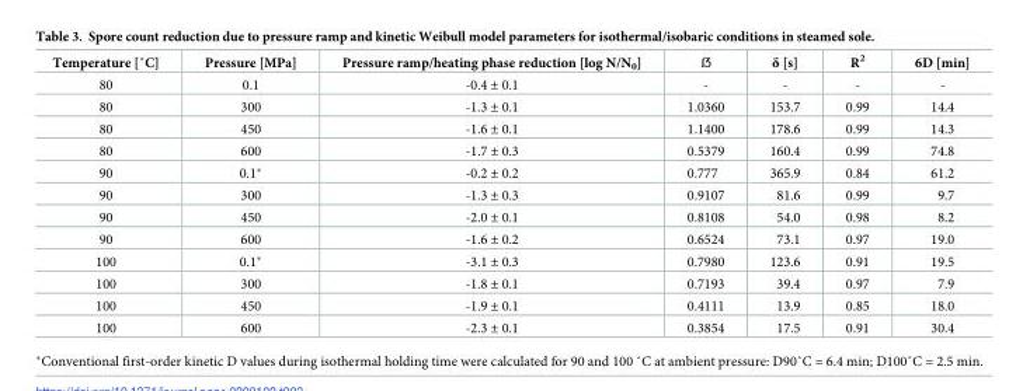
<table><thead><tr><td>Temperature [˚C]</td><td>Pressure [MPa]</td><td>Pressure ramp/heating phase reduction [log N/N<sub>0</sub>]</td><td>ẞ</td><td>δ [s]</td><td>R<sup>2</sup></td><td>6D [min]</td></tr></thead><tbody><tr><td>80</td><td>0.1</td><td>-0.4 ± 0.1</td><td>-</td><td>-</td><td>-</td><td>-</td></tr><tr><td>80</td><td>300</td><td>-1.3 ± 0.1</td><td>1.0360</td><td>153.7</td><td>0.99</td><td>14.4</td></tr><tr><td>80</td><td>450</td><td>-1.6 ± 0.1</td><td>1.1400</td><td>178.6</td><td>0.99</td><td>14.3</td></tr><tr><td>80</td><td>600</td><td>-1.7 ± 0.3</td><td>0.5379</td><td>160.4</td><td>0.99</td><td>74.8</td></tr><tr><td>90</td><td>0.1*</td><td>-0.2 ± 0.2</td><td>0.777</td><td>365.9</td><td>0.84</td><td>61.2</td></tr><tr><td>90</td><td>300</td><td>-1.3 ± 0.3</td><td>0.9107</td><td>81.6</td><td>0.99</td><td>9.7</td></tr><tr><td>90</td><td>450</td><td>-2.0 ± 0.1</td><td>0.8108</td><td>54.0</td><td>0.98</td><td>8.2</td></tr><tr><td>90</td><td>600</td><td>-1.6 ± 0.2</td><td>0.6524</td><td>73.1</td><td>0.97</td><td>19.0</td></tr><tr><td>100</td><td>0.1*</td><td>-3.1 ± 0.3</td><td>0.7980</td><td>123.6</td><td>0.91</td><td>19.5</td></tr><tr><td>100</td><td>300</td><td>-1.8 ± 0.1</td><td>0.7193</td><td>39.4</td><td>0.97</td><td>7.9</td></tr><tr><td>100</td><td>450</td><td>-1.9 ± 0.1</td><td>0.4111</td><td>13.9</td><td>0.85</td><td>18.0</td></tr><tr><td>100</td><td>600</td><td>-2.3 ± 0.1</td><td>0.3854</td><td>17.5</td><td>0.91</td><td>30.4</td></tr></tbody></table>